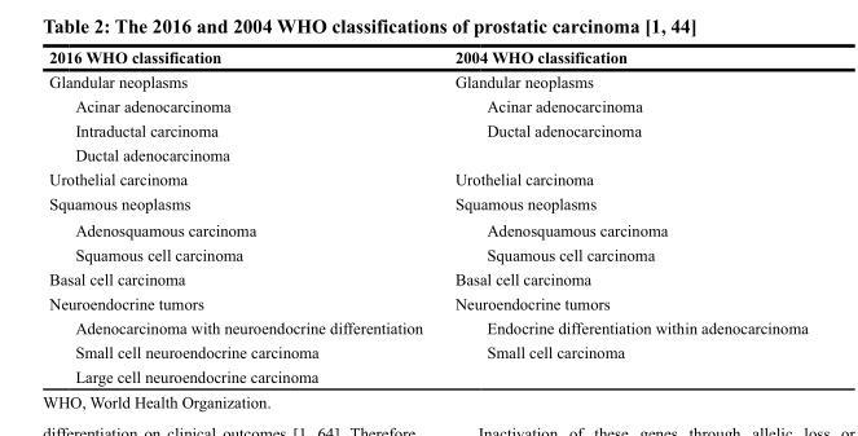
<table><thead><tr><td>2016 WHO classification</td><td>2004 WHO classification</td></tr></thead><tbody><tr><td>Glandular neoplasms</td><td>Glandular neoplasms</td></tr><tr><td>Acinar adenocarcinoma</td><td>Acinar adenocarcinoma</td></tr><tr><td>Intraductal carcinoma</td><td>Ductal adenocarcinoma</td></tr><tr><td colspan="2">Ductal adenocarcinoma</td></tr><tr><td>Urothelial carcinoma</td><td>Urothelial carcinoma</td></tr><tr><td>Squamous neoplasms</td><td>Squamous neoplasms</td></tr><tr><td>Adenosquamous carcinoma</td><td>Adenosquamous carcinoma</td></tr><tr><td>Squamous cell carcinoma</td><td>Squamous cell carcinoma</td></tr><tr><td>Basal cell carcinoma</td><td>Basal cell carcinoma</td></tr><tr><td>Neuroendocrine tumors</td><td>Neuroendocrine tumors</td></tr><tr><td>Adenocarcinoma with neuroendocrine differentiation</td><td>Endocrine differentiation within adenocarcinoma</td></tr><tr><td>Small cell neuroendocrine carcinoma</td><td>Small cell carcinoma</td></tr><tr><td>Large cell neuroendocrine carcinoma</td><td></td></tr></tbody></table>